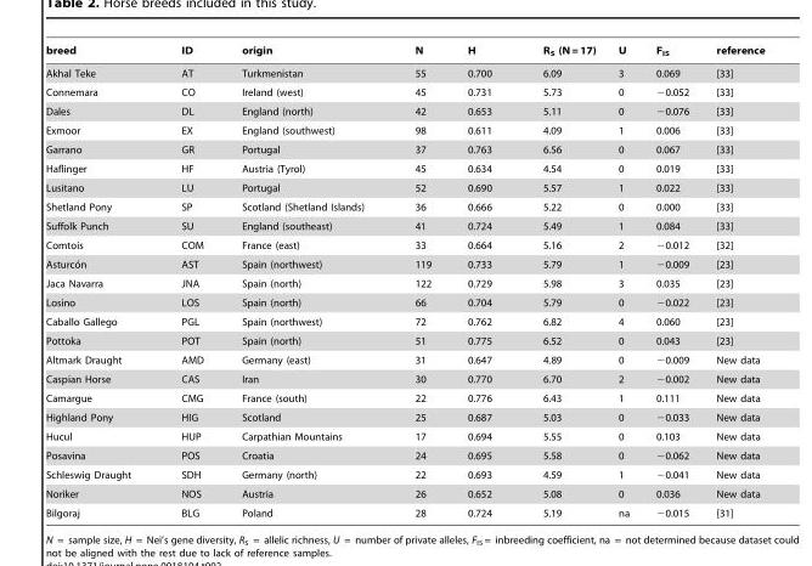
<table><thead><tr><td>breed</td><td>ID</td><td>origin</td><td>N</td><td>H</td><td>R<sub>S</sub> (N = 17)</td><td>U</td><td>F<sub>IS</sub></td><td>reference</td></tr></thead><tbody><tr><td>Akhal Teke</td><td>AT</td><td>Turkmenistan</td><td>55</td><td>0.700</td><td>6.09</td><td>3</td><td>0.069</td><td>[33]</td></tr><tr><td>Connemara</td><td>CO</td><td>Ireland (west)</td><td>45</td><td>0.731</td><td>5.73</td><td>0</td><td>−0.052</td><td>[33]</td></tr><tr><td>Dales</td><td>DL</td><td>England (north)</td><td>42</td><td>0.653</td><td>5.11</td><td>0</td><td>−0.076</td><td>[33]</td></tr><tr><td>Exmoor</td><td>EX</td><td>England (southwest)</td><td>98</td><td>0.611</td><td>4.09</td><td>1</td><td>0.006</td><td>[33]</td></tr><tr><td>Garrano</td><td>GR</td><td>Portugal</td><td>37</td><td>0.763</td><td>6.56</td><td>0</td><td>0.067</td><td>[33]</td></tr><tr><td>Haflinger</td><td>HF</td><td>Austria (Tyrol)</td><td>45</td><td>0.634</td><td>4.54</td><td>0</td><td>0.019</td><td>[33]</td></tr><tr><td>Lusitano</td><td>LU</td><td>Portugal</td><td>52</td><td>0.690</td><td>5.57</td><td>1</td><td>0.022</td><td>[33]</td></tr><tr><td>Shetland Pony</td><td>SP</td><td>Scotland (Shetland Islands)</td><td>36</td><td>0.666</td><td>5.22</td><td>0</td><td>0.000</td><td>[33]</td></tr><tr><td>Suffolk Punch</td><td>SU</td><td>England (southeast)</td><td>41</td><td>0.724</td><td>5.49</td><td>1</td><td>0.084</td><td>[33]</td></tr><tr><td>Comtois</td><td>COM</td><td>France (east)</td><td>33</td><td>0.664</td><td>5.16</td><td>2</td><td>−0.012</td><td>[32]</td></tr><tr><td>Asturco´n</td><td>AST</td><td>Spain (northwest)</td><td>119</td><td>0.733</td><td>5.79</td><td>1</td><td>−0.009</td><td>[23]</td></tr><tr><td>Jaca Navarra</td><td>JNA</td><td>Spain (north)</td><td>122</td><td>0.729</td><td>5.98</td><td>3</td><td>0.035</td><td>[23]</td></tr><tr><td>Losino</td><td>LOS</td><td>Spain (north)</td><td>66</td><td>0.704</td><td>5.79</td><td>0</td><td>−0.022</td><td>[23]</td></tr><tr><td>Caballo Gallego</td><td>PGL</td><td>Spain (northwest)</td><td>72</td><td>0.762</td><td>6.82</td><td>4</td><td>0.060</td><td>[23]</td></tr><tr><td>Pottoka</td><td>POT</td><td>Spain (north)</td><td>51</td><td>0.775</td><td>6.52</td><td>0</td><td>0.043</td><td>[23]</td></tr><tr><td>Altmark Draught</td><td>AMD</td><td>Germany (east)</td><td>31</td><td>0.647</td><td>4.89</td><td>0</td><td>−0.009</td><td>New data</td></tr><tr><td>Caspian Horse</td><td>CAS</td><td>Iran</td><td>30</td><td>0.770</td><td>6.70</td><td>2</td><td>−0.002</td><td>New data</td></tr><tr><td>Camargue</td><td>CMG</td><td>France (south)</td><td>22</td><td>0.776</td><td>6.43</td><td>1</td><td>0.111</td><td>New data</td></tr><tr><td>Highland Pony</td><td>HIG</td><td>Scotland</td><td>25</td><td>0.687</td><td>5.03</td><td>0</td><td>−0.033</td><td>New data</td></tr><tr><td>Hucul</td><td>HUP</td><td>Carpathian Mountains</td><td>17</td><td>0.694</td><td>5.55</td><td>0</td><td>0.103</td><td>New data</td></tr><tr><td>Posavina</td><td>POS</td><td>Croatia</td><td>24</td><td>0.695</td><td>5.58</td><td>0</td><td>−0.062</td><td>New data</td></tr><tr><td>Schleswig Draught</td><td>SDH</td><td>Germany (north)</td><td>22</td><td>0.693</td><td>4.59</td><td>1</td><td>−0.041</td><td>New data</td></tr><tr><td>Noriker</td><td>NOS</td><td>Austria</td><td>26</td><td>0.652</td><td>5.08</td><td>0</td><td>0.036</td><td>New data</td></tr><tr><td>Bilgoraj</td><td>BLG</td><td>Poland</td><td>28</td><td>0.724</td><td>5.19</td><td>na</td><td>−0.015</td><td>[31]</td></tr></tbody></table>